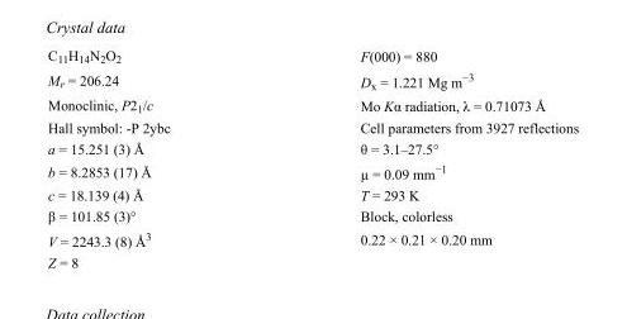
<table><tbody><tr><td>C<sub>11</sub>H<sub>14</sub>N<sub>2</sub>O<sub>2</sub></td><td>F(000) = 880</td></tr><tr><td>M<sub>r</sub> = 206.24</td><td>D<sub>x</sub> = 1.221 Mg m<sup>−3</sup></td></tr><tr><td>Monoclinic, P2<sub>1</sub>/c</td><td>Mo Kα radiation, λ = 0.71073 Å</td></tr><tr><td>Hall symbol: -P 2ybc</td><td>Cell parameters from 3927 reflections</td></tr><tr><td>a = 15.251 (3) Å</td><td>θ = 3.1–27.5°</td></tr><tr><td>b = 8.2853 (17) Å</td><td>µ = 0.09 mm<sup>−1</sup></td></tr><tr><td>c = 18.139 (4) Å</td><td>T = 293 K</td></tr><tr><td>β = 101.85 (3)°</td><td>Block, colorless</td></tr><tr><td>V = 2243.3 (8) Å<sup>3</sup></td><td>0.22 × 0.21 × 0.20 mm</td></tr><tr><td>Z = 8</td><td></td></tr></tbody></table>